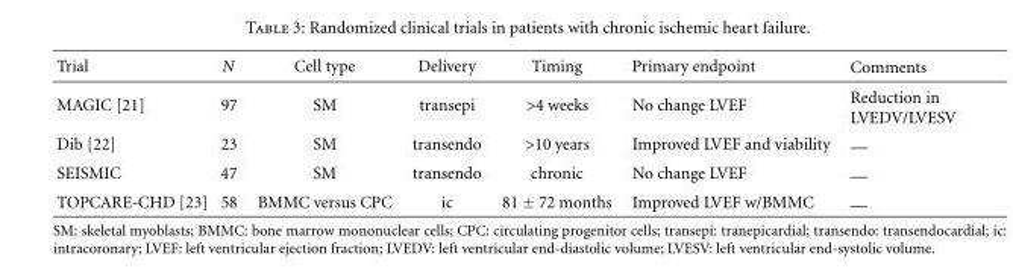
<table><thead><tr><td>Trial</td><td>N</td><td>Cell type</td><td>Delivery</td><td>Timing</td><td>Primary endpoint</td><td>Comments</td></tr></thead><tbody><tr><td>MAGIC [21]</td><td>97</td><td>SM</td><td>transepi</td><td>&gt;4 weeks</td><td>No change LVEF</td><td>Reduction in LVEDV/LVESV</td></tr><tr><td>Dib [22]</td><td>23</td><td>SM</td><td>transendo</td><td>&gt;10 years</td><td>Improved LVEF and viability</td><td>—</td></tr><tr><td>SEISMIC</td><td>47</td><td>SM</td><td>transendo</td><td>chronic</td><td>No change LVEF</td><td>—</td></tr><tr><td>TOPCARE-CHD [23]</td><td>58</td><td>BMMC versus CPC</td><td>ic</td><td>81 ± 72 months</td><td>Improved LVEF w/BMMC</td><td>—</td></tr></tbody></table>